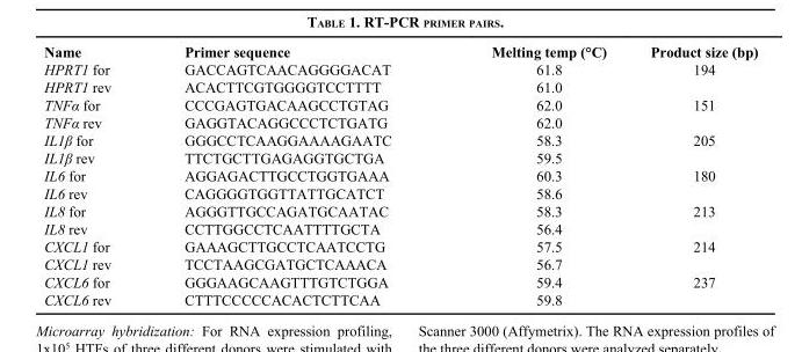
<table><thead><tr><td>Name</td><td>Primer sequence</td><td>Melting temp (°C)</td><td>Product size (bp)</td></tr></thead><tbody><tr><td>HPRT1 for</td><td>GACCAGTCAACAGGGGACAT</td><td>61.8</td><td>194</td></tr><tr><td>HPRT1 rev</td><td>ACACTTCGTGGGGTCCTTTT</td><td>61.0</td><td></td></tr><tr><td>TNFα for</td><td>CCCGAGTGACAAGCCTGTAG</td><td>62.0</td><td>151</td></tr><tr><td>TNFα rev</td><td>GAGGTACAGGCCCTCTGATG</td><td>62.0</td><td></td></tr><tr><td>IL1β for</td><td>GGGCCTCAAGGAAAAGAATC</td><td>58.3</td><td>205</td></tr><tr><td>IL1β rev</td><td>TTCTGCTTGAGAGGTGCTGA</td><td>59.5</td><td></td></tr><tr><td>IL6 for</td><td>AGGAGACTTGCCTGGTGAAA</td><td>60.3</td><td>180</td></tr><tr><td>IL6 rev</td><td>CAGGGGTGGTTATTGCATCT</td><td>58.6</td><td></td></tr><tr><td>IL8 for</td><td>AGGGTTGCCAGATGCAATAC</td><td>58.3</td><td>213</td></tr><tr><td>IL8 rev</td><td>CCTTGGCCTCAATTTTGCTA</td><td>56.4</td><td></td></tr><tr><td>CXCL1 for</td><td>GAAAGCTTGCCTCAATCCTG</td><td>57.5</td><td>214</td></tr><tr><td>CXCL1 rev</td><td>TCCTAAGCGATGCTCAAACA</td><td>56.7</td><td></td></tr><tr><td>CXCL6 for</td><td>GGGAAGCAAGTTTGTCTGGA</td><td>59.4</td><td>237</td></tr><tr><td>CXCL6 rev</td><td>CTTTCCCCCACACTCTTCAA</td><td>59.8</td><td></td></tr></tbody></table>